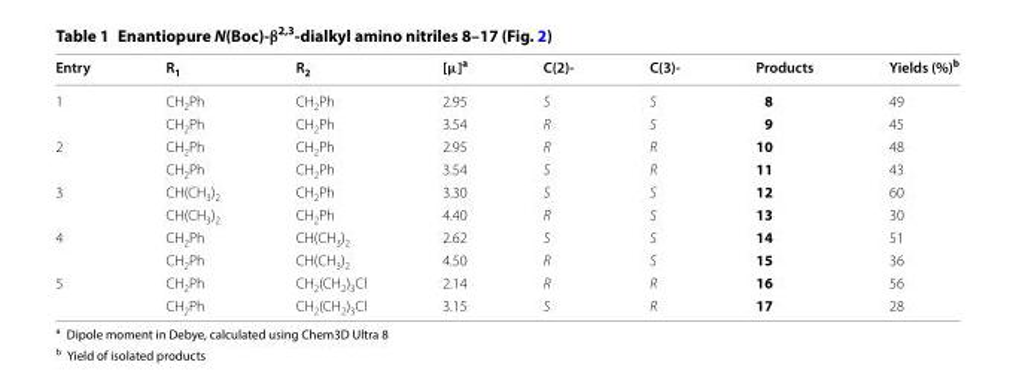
<table><thead><tr><td>Entry</td><td>R<sub>1</sub></td><td>R<sub>2</sub></td><td>[μ]<sup>a</sup></td><td>C(2)‑</td><td>C(3)‑</td><td>Products</td><td>Yields (%)<sup>b</sup></td></tr></thead><tbody><tr><td rowspan="2">1</td><td>CH<sub>2</sub>Ph</td><td>CH<sub>2</sub>Ph</td><td>2.95</td><td>S</td><td>S</td><td>8</td><td>49</td></tr><tr><td>CH<sub>2</sub>Ph</td><td>CH<sub>2</sub>Ph</td><td>3.54</td><td>R</td><td>S</td><td>9</td><td>45</td></tr><tr><td rowspan="2">2</td><td>CH<sub>2</sub>Ph</td><td>CH<sub>2</sub>Ph</td><td>2.95</td><td>R</td><td>R</td><td>10</td><td>48</td></tr><tr><td>CH<sub>2</sub>Ph</td><td>CH<sub>2</sub>Ph</td><td>3.54</td><td>S</td><td>R</td><td>11</td><td>43</td></tr><tr><td rowspan="2">3</td><td>CH(CH<sub>3</sub>)<sub>2</sub></td><td>CH<sub>2</sub>Ph</td><td>3.30</td><td>S</td><td>S</td><td>12</td><td>60</td></tr><tr><td>CH(CH<sub>3</sub>)<sub>2</sub></td><td>CH<sub>2</sub>Ph</td><td>4.40</td><td>R</td><td>S</td><td>13</td><td>30</td></tr><tr><td rowspan="2">4</td><td>CH<sub>2</sub>Ph</td><td>CH(CH<sub>3</sub>)<sub>2</sub></td><td>2.62</td><td>S</td><td>S</td><td>14</td><td>51</td></tr><tr><td>CH<sub>2</sub>Ph</td><td>CH(CH<sub>3</sub>)<sub>2</sub></td><td>4.50</td><td>R</td><td>S</td><td>15</td><td>36</td></tr><tr><td rowspan="2">5</td><td>CH<sub>2</sub>Ph</td><td>CH<sub>2</sub>(CH<sub>2</sub>)<sub>3</sub>Cl</td><td>2.14</td><td>R</td><td>R</td><td>16</td><td>56</td></tr><tr><td>CH<sub>2</sub>Ph</td><td>CH<sub>2</sub>(CH<sub>2</sub>)<sub>3</sub>Cl</td><td>3.15</td><td>S</td><td>R</td><td>17</td><td>28</td></tr></tbody></table>